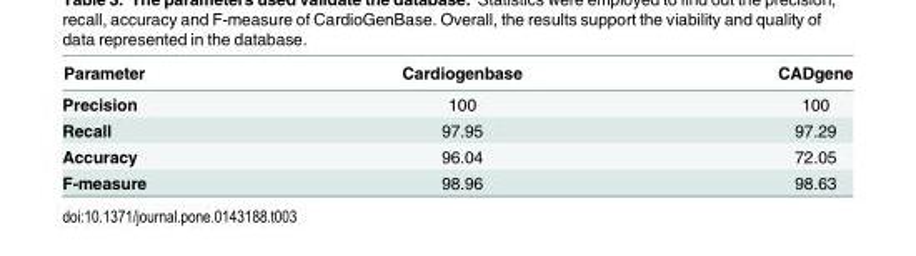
<table><thead><tr><td>Parameter</td><td>Cardiogenbase</td><td>CADgene</td></tr></thead><tbody><tr><td>Precision</td><td>100</td><td>100</td></tr><tr><td>Recall</td><td>97.95</td><td>97.29</td></tr><tr><td>Accuracy</td><td>96.04</td><td>72.05</td></tr><tr><td>F-measure</td><td>98.96</td><td>98.63</td></tr></tbody></table>